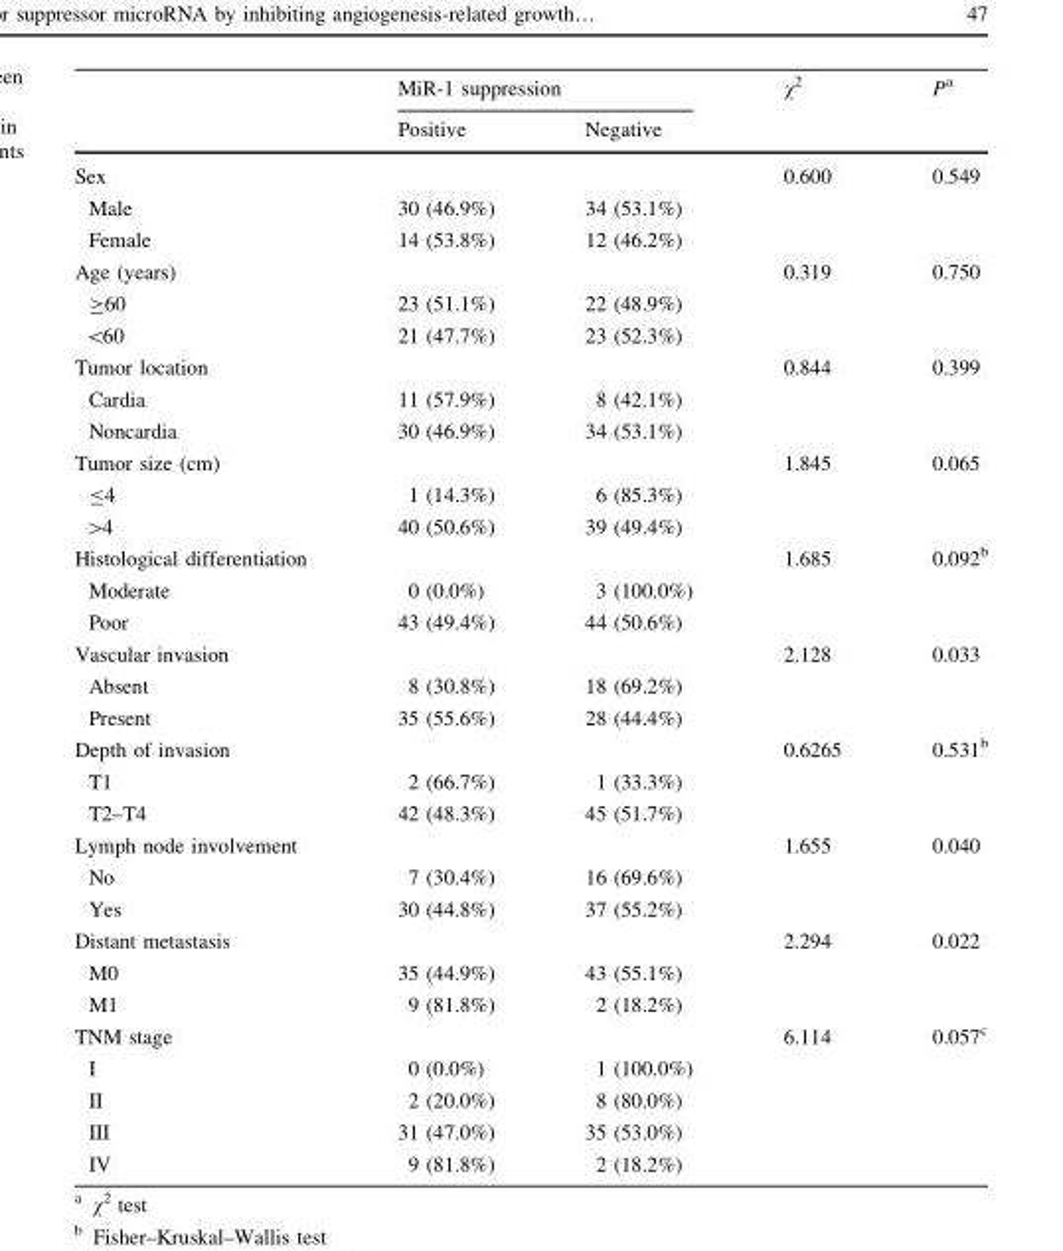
<table><thead><tr><td rowspan="2"></td><td colspan="2">MiR-1 suppression</td><td rowspan="2">χ<sup>2</sup></td><td rowspan="2">P<sup>a</sup></td></tr><tr><td>Positive</td><td>Negative</td></tr></thead><tbody><tr><td>Sex</td><td></td><td></td><td>0.600</td><td>0.549</td></tr><tr><td>Male</td><td>30 (46.9%)</td><td>34 (53.1%)</td><td></td><td></td></tr><tr><td>Female</td><td>14 (53.8%)</td><td>12 (46.2%)</td><td></td><td></td></tr><tr><td>Age (years)</td><td></td><td></td><td>0.319</td><td>0.750</td></tr><tr><td>≥60</td><td>23 (51.1%)</td><td>22 (48.9%)</td><td></td><td></td></tr><tr><td>&lt;60</td><td>21 (47.7%)</td><td>23 (52.3%)</td><td></td><td></td></tr><tr><td>Tumor location</td><td></td><td></td><td>0.844</td><td>0.399</td></tr><tr><td>Cardia</td><td>11 (57.9%)</td><td>8 (42.1%)</td><td></td><td></td></tr><tr><td>Noncardia</td><td>30 (46.9%)</td><td>34 (53.1%)</td><td></td><td></td></tr><tr><td>Tumor size (cm)</td><td></td><td></td><td>1.845</td><td>0.065</td></tr><tr><td>≤4</td><td>1 (14.3%)</td><td>6 (85.3%)</td><td></td><td></td></tr><tr><td>&gt;4</td><td>40 (50.6%)</td><td>39 (49.4%)</td><td></td><td></td></tr><tr><td>Histological differentiation</td><td></td><td></td><td>1.685</td><td>0.092<sup>b</sup></td></tr><tr><td>Moderate</td><td>0 (0.0%)</td><td>3 (100.0%)</td><td></td><td></td></tr><tr><td>Poor</td><td>43 (49.4%)</td><td>44 (50.6%)</td><td></td><td></td></tr><tr><td>Vascular invasion</td><td></td><td></td><td>2.128</td><td>0.033</td></tr><tr><td>Absent</td><td>8 (30.8%)</td><td>18 (69.2%)</td><td></td><td></td></tr><tr><td>Present</td><td>35 (55.6%)</td><td>28 (44.4%)</td><td></td><td></td></tr><tr><td>Depth of invasion</td><td></td><td></td><td>0.6265</td><td>0.531<sup>b</sup></td></tr><tr><td>T1</td><td>2 (66.7%)</td><td>1 (33.3%)</td><td></td><td></td></tr><tr><td>T2–T4</td><td>42 (48.3%)</td><td>45 (51.7%)</td><td></td><td></td></tr><tr><td>Lymph node involvement</td><td></td><td></td><td>1.655</td><td>0.040</td></tr><tr><td>No</td><td>7 (30.4%)</td><td>16 (69.6%)</td><td></td><td></td></tr><tr><td>Yes</td><td>30 (44.8%)</td><td>37 (55.2%)</td><td></td><td></td></tr><tr><td>Distant metastasis</td><td></td><td></td><td>2.294</td><td>0.022</td></tr><tr><td>M0</td><td>35 (44.9%)</td><td>43 (55.1%)</td><td></td><td></td></tr><tr><td>M1</td><td>9 (81.8%)</td><td>2 (18.2%)</td><td></td><td></td></tr><tr><td>TNM stage</td><td></td><td></td><td>6.114</td><td>0.057<sup>c</sup></td></tr><tr><td>I</td><td>0 (0.0%)</td><td>1 (100.0%)</td><td></td><td></td></tr><tr><td>II</td><td>2 (20.0%)</td><td>8 (80.0%)</td><td></td><td></td></tr><tr><td>III</td><td>31 (47.0%)</td><td>35 (53.0%)</td><td></td><td></td></tr><tr><td>IV</td><td>9 (81.8%)</td><td>2 (18.2%)</td><td></td><td></td></tr></tbody></table>